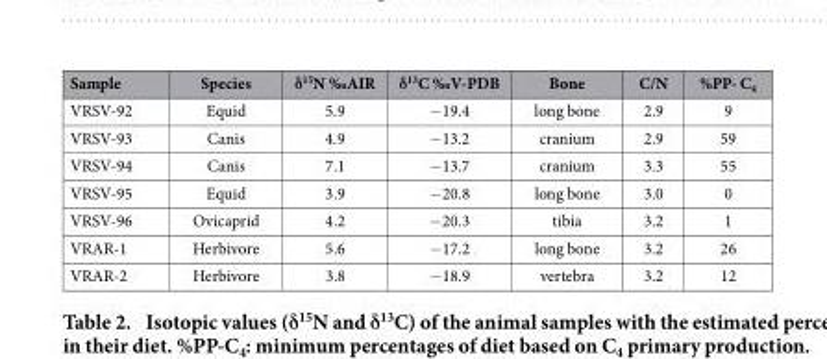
<table><thead><tr><td>Sample</td><td>Species</td><td>δ<sup>15</sup>N ‰AIR</td><td>δ<sup>13</sup>C ‰V-PDB</td><td>Bone</td><td>C/N</td><td>%PP- C<sub>4</sub></td></tr></thead><tbody><tr><td>VRSV-92</td><td>Equid</td><td>5.9</td><td>− 19.4</td><td>long bone</td><td>2.9</td><td>9</td></tr><tr><td>VRSV-93</td><td>Canis</td><td>4.9</td><td>− 13.2</td><td>cranium</td><td>2.9</td><td>59</td></tr><tr><td>VRSV-94</td><td>Canis</td><td>7.1</td><td>− 13.7</td><td>cranium</td><td>3.3</td><td>55</td></tr><tr><td>VRSV-95</td><td>Equid</td><td>3.9</td><td>− 20.8</td><td>long bone</td><td>3.0</td><td>0</td></tr><tr><td>VRSV-96</td><td>Ovicaprid</td><td>4.2</td><td>− 20.3</td><td>tibia</td><td>3.2</td><td>1</td></tr><tr><td>VRAR-1</td><td>Herbivore</td><td>5.6</td><td>− 17.2</td><td>long bone</td><td>3.2</td><td>26</td></tr><tr><td>VRAR-2</td><td>Herbivore</td><td>3.8</td><td>− 18.9</td><td>vertebra</td><td>3.2</td><td>12</td></tr></tbody></table>